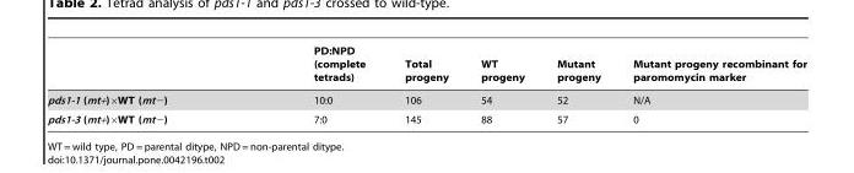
<table><thead><tr><td></td><td>PD:NPD (complete tetrads)</td><td>Total progeny</td><td>WT progeny</td><td>Mutant progeny</td><td>Mutant progeny recombinant for paromomycin marker</td></tr></thead><tbody><tr><td>pds1-1 (mt+)×WT (mt−)</td><td>10:0</td><td>106</td><td>54</td><td>52</td><td>N/A</td></tr><tr><td>pds1-3 (mt+)×WT (mt−)</td><td>7:0</td><td>145</td><td>88</td><td>57</td><td>0</td></tr></tbody></table>